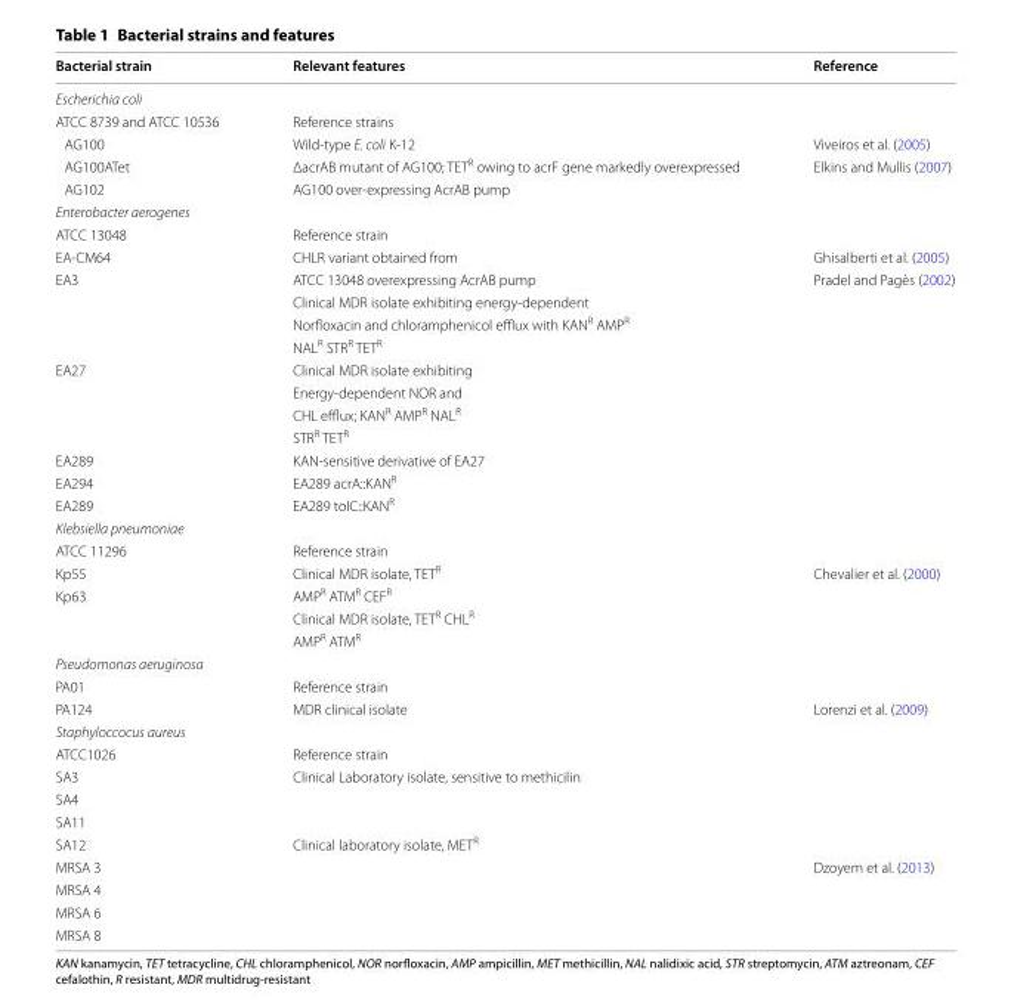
<table><thead><tr><td>Bacterial strain</td><td>Relevant features</td><td>Reference</td></tr></thead><tbody><tr><td colspan="3">Escherichia coli</td></tr><tr><td>ATCC 8739 and ATCC 10536</td><td>Reference strains</td><td></td></tr><tr><td>AG100</td><td>Wild-type E. coli K-12</td><td>Viveiros et al. (2005)</td></tr><tr><td>AG100ATet</td><td>ΔacrAB mutant of AG100; TET<sup>R</sup> owing to acrF gene markedly overexpressed</td><td>Elkins and Mullis (2007)</td></tr><tr><td>AG102</td><td>AG100 over-expressing AcrAB pump</td><td></td></tr><tr><td colspan="3">Enterobacter aerogenes</td></tr><tr><td>ATCC 13048</td><td>Reference strain</td><td></td></tr><tr><td>EA-CM64</td><td>CHLR variant obtained from</td><td>Ghisalberti et al. (2005)</td></tr><tr><td rowspan="4">EA3</td><td>ATCC 13048 overexpressing AcrAB pump</td><td>Pradel and Pagès (2002)</td></tr><tr><td>Clinical MDR isolate exhibiting energy-dependent</td><td></td></tr><tr><td>Norfloxacin and chloramphenicol efflux with KAN<sup>R</sup> AMP<sup>R</sup></td><td></td></tr><tr><td>NAL<sup>R</sup> STR<sup>R</sup> TET<sup>R</sup></td><td></td></tr><tr><td rowspan="4">EA27</td><td>Clinical MDR isolate exhibiting</td><td></td></tr><tr><td>Energy-dependent NOR and</td><td></td></tr><tr><td>CHL efflux; KAN<sup>R</sup> AMP<sup>R</sup> NAL<sup>R</sup></td><td></td></tr><tr><td>STR<sup>R</sup> TET<sup>R</sup></td><td></td></tr><tr><td>EA289</td><td>KAN-sensitive derivative of EA27</td><td></td></tr><tr><td>EA294</td><td>EA289 acrA::KAN<sup>R</sup></td><td></td></tr><tr><td>EA289</td><td>EA289 tolC::KAN<sup>R</sup></td><td></td></tr><tr><td colspan="3">Klebsiella pneumoniae</td></tr><tr><td>ATCC 11296</td><td>Reference strain</td><td></td></tr><tr><td>Kp55</td><td>Clinical MDR isolate, TET<sup>R</sup></td><td>Chevalier et al. (2000)</td></tr><tr><td rowspan="3">Kp63</td><td>AMP<sup>R</sup> ATM<sup>R</sup> CEF<sup>R</sup></td><td></td></tr><tr><td>Clinical MDR isolate, TET<sup>R</sup> CHL<sup>R</sup></td><td></td></tr><tr><td>AMP<sup>R</sup> ATM<sup>R</sup></td><td></td></tr><tr><td colspan="3">Pseudomonas aeruginosa</td></tr><tr><td>PA01</td><td>Reference strain</td><td></td></tr><tr><td>PA124</td><td>MDR clinical isolate</td><td>Lorenzi et al. (2009)</td></tr><tr><td colspan="3">Staphyloccocus aureus</td></tr><tr><td>ATCC1026</td><td>Reference strain</td><td></td></tr><tr><td>SA3</td><td>Clinical Laboratory isolate, sensitive to methicilin</td><td></td></tr><tr><td colspan="3">SA4</td></tr><tr><td colspan="3">SA11</td></tr><tr><td>SA12</td><td>Clinical laboratory isolate, MET<sup>R</sup></td><td></td></tr><tr><td>MRSA 3</td><td></td><td>Dzoyem et al. (2013)</td></tr><tr><td colspan="3">MRSA 4</td></tr><tr><td colspan="3">MRSA 6</td></tr><tr><td>MRSA 8</td><td></td><td></td></tr></tbody></table>